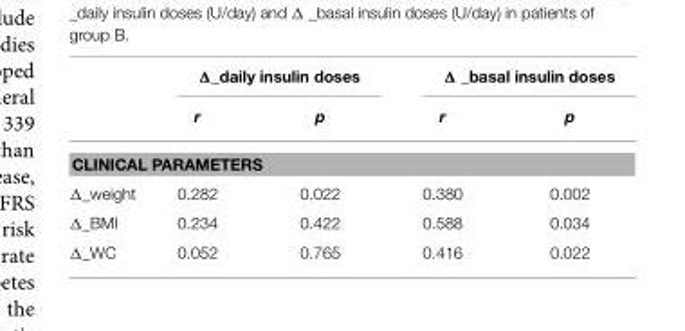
<table><thead><tr><td rowspan="2"></td><td colspan="2">Δ_daily insulin doses</td><td colspan="2">Δ _basal insulin doses</td></tr><tr><td>r</td><td>p</td><td>r</td><td>p</td></tr></thead><tbody><tr><td colspan="5">CLINICAL PARAMETERS</td></tr><tr><td>Δ_weight</td><td>0.282</td><td>0.022</td><td>0.380</td><td>0.002</td></tr><tr><td>Δ_BMI</td><td>0.234</td><td>0.422</td><td>0.588</td><td>0.034</td></tr><tr><td>Δ_WC</td><td>0.052</td><td>0.765</td><td>0.416</td><td>0.022</td></tr></tbody></table>